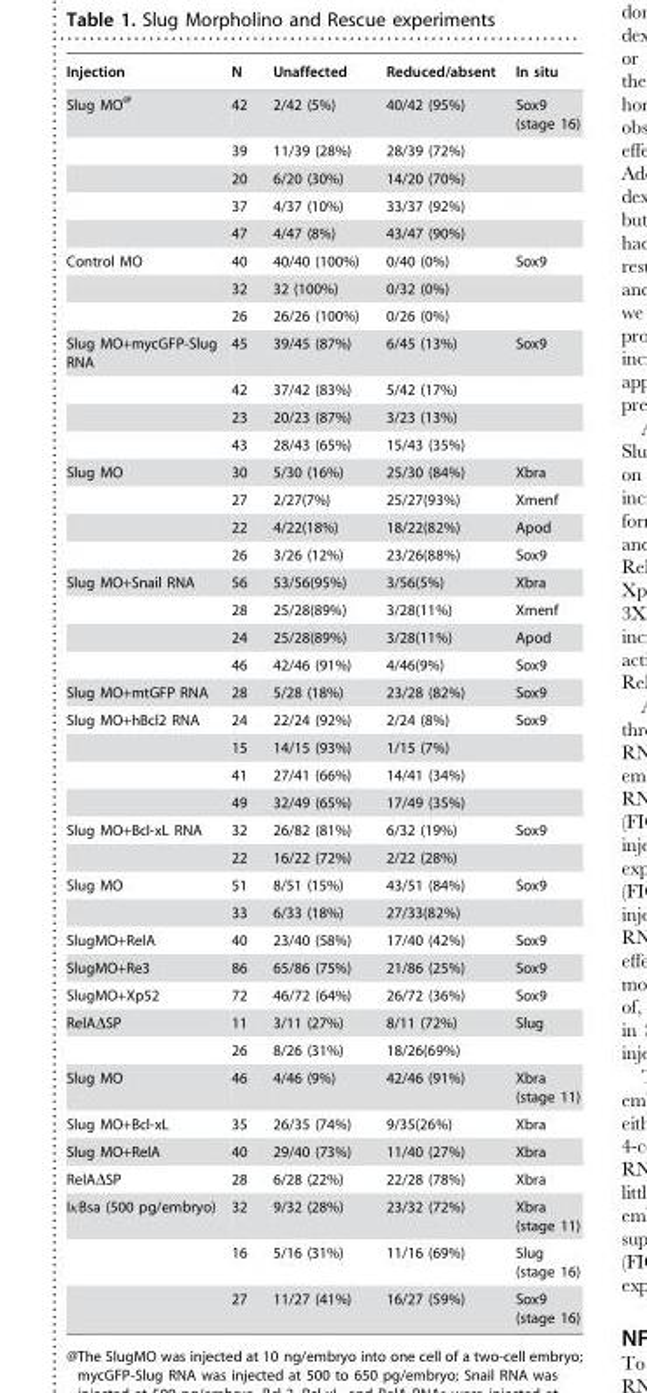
<table><thead><tr><td>Injection</td><td>N</td><td>Unaffected</td><td>Reduced/absent</td><td>In situ</td></tr></thead><tbody><tr><td rowspan="5">Slug MO@</td><td>42</td><td>2/42 (5%)</td><td>40/42 (95%)</td><td>Sox9 (stage 16)</td></tr><tr><td>39</td><td>11/39 (28%)</td><td>28/39 (72%)</td><td></td></tr><tr><td>20</td><td>6/20 (30%)</td><td>14/20 (70%)</td><td></td></tr><tr><td>37</td><td>4/37 (10%)</td><td>33/37 (92%)</td><td></td></tr><tr><td>47</td><td>4/47 (8%)</td><td>43/47 (90%)</td><td></td></tr><tr><td rowspan="3">Control MO</td><td>40</td><td>40/40 (100%)</td><td>0/40 (0%)</td><td>Sox9</td></tr><tr><td>32</td><td>32 (100%)</td><td>0/32 (0%)</td><td></td></tr><tr><td>26</td><td>26/26 (100%)</td><td>0/26 (0%)</td><td></td></tr><tr><td rowspan="4">Slug MO+mycGFP-Slug RNA</td><td>45</td><td>39/45 (87%)</td><td>6/45 (13%)</td><td>Sox9</td></tr><tr><td>42</td><td>37/42 (83%)</td><td>5/42 (17%)</td><td></td></tr><tr><td>23</td><td>20/23 (87%)</td><td>3/23 (13%)</td><td></td></tr><tr><td>43</td><td>28/43 (65%)</td><td>15/43 (35%)</td><td></td></tr><tr><td rowspan="4">Slug MO</td><td>30</td><td>5/30 (16%)</td><td>25/30 (84%)</td><td>Xbra</td></tr><tr><td>27</td><td>2/27(7%)</td><td>25/27(93%)</td><td>Xmenf</td></tr><tr><td>22</td><td>4/22(18%)</td><td>18/22(82%)</td><td>Apod</td></tr><tr><td>26</td><td>3/26 (12%)</td><td>23/26(88%)</td><td>Sox9</td></tr><tr><td rowspan="4">Slug MO+Snail RNA</td><td>56</td><td>53/56(95%)</td><td>3/56(5%)</td><td>Xbra</td></tr><tr><td>28</td><td>25/28(89%)</td><td>3/28(11%)</td><td>Xmenf</td></tr><tr><td>24</td><td>25/28(89%)</td><td>3/28(11%)</td><td>Apod</td></tr><tr><td>46</td><td>42/46 (91%)</td><td>4/46(9%)</td><td>Sox9</td></tr><tr><td>Slug MO+mtGFP RNA</td><td>28</td><td>5/28 (18%)</td><td>23/28 (82%)</td><td>Sox9</td></tr><tr><td rowspan="4">Slug MO+hBcl2 RNA</td><td>24</td><td>22/24 (92%)</td><td>2/24 (8%)</td><td>Sox9</td></tr><tr><td>15</td><td>14/15 (93%)</td><td>1/15 (7%)</td><td></td></tr><tr><td>41</td><td>27/41 (66%)</td><td>14/41 (34%)</td><td></td></tr><tr><td>49</td><td>32/49 (65%)</td><td>17/49 (35%)</td><td></td></tr><tr><td rowspan="2">Slug MO+Bcl-xL RNA</td><td>32</td><td>26/82 (81%)</td><td>6/32 (19%)</td><td>Sox9</td></tr><tr><td>22</td><td>16/22 (72%)</td><td>2/22 (28%)</td><td></td></tr><tr><td rowspan="2">Slug MO</td><td>51</td><td>8/51 (15%)</td><td>43/51 (84%)</td><td>Sox9</td></tr><tr><td>33</td><td>6/33 (18%)</td><td>27/33(82%)</td><td></td></tr><tr><td>SlugMO+RelA</td><td>40</td><td>23/40 (58%)</td><td>17/40 (42%)</td><td>Sox9</td></tr><tr><td>SlugMO+Re3</td><td>86</td><td>65/86 (75%)</td><td>21/86 (25%)</td><td>Sox9</td></tr><tr><td>SlugMO+Xp52</td><td>72</td><td>46/72 (64%)</td><td>26/72 (36%)</td><td>Sox9</td></tr><tr><td rowspan="2">RelAΔSP</td><td>11</td><td>3/11 (27%)</td><td>8/11 (72%)</td><td>Slug</td></tr><tr><td>26</td><td>8/26 (31%)</td><td>18/26(69%)</td><td></td></tr><tr><td>Slug MO</td><td>46</td><td>4/46 (9%)</td><td>42/46 (91%)</td><td>Xbra (stage 11)</td></tr><tr><td>Slug MO+Bcl-xL</td><td>35</td><td>26/35 (74%)</td><td>9/35(26%)</td><td>Xbra</td></tr><tr><td>Slug MO+RelA</td><td>40</td><td>29/40 (73%)</td><td>11/40 (27%)</td><td>Xbra</td></tr><tr><td>RelAΔSP</td><td>28</td><td>6/28 (22%)</td><td>22/28 (78%)</td><td>Xbra</td></tr><tr><td rowspan="3">IκBsa (500 pg/embryo)</td><td>32</td><td>9/32 (28%)</td><td>23/32 (72%)</td><td>Xbra (stage 11)</td></tr><tr><td>16</td><td>5/16 (31%)</td><td>11/16 (69%)</td><td>Slug (stage 16)</td></tr><tr><td>27</td><td>11/27 (41%)</td><td>16/27 (59%)</td><td>Sox9 (stage 16)</td></tr></tbody></table>